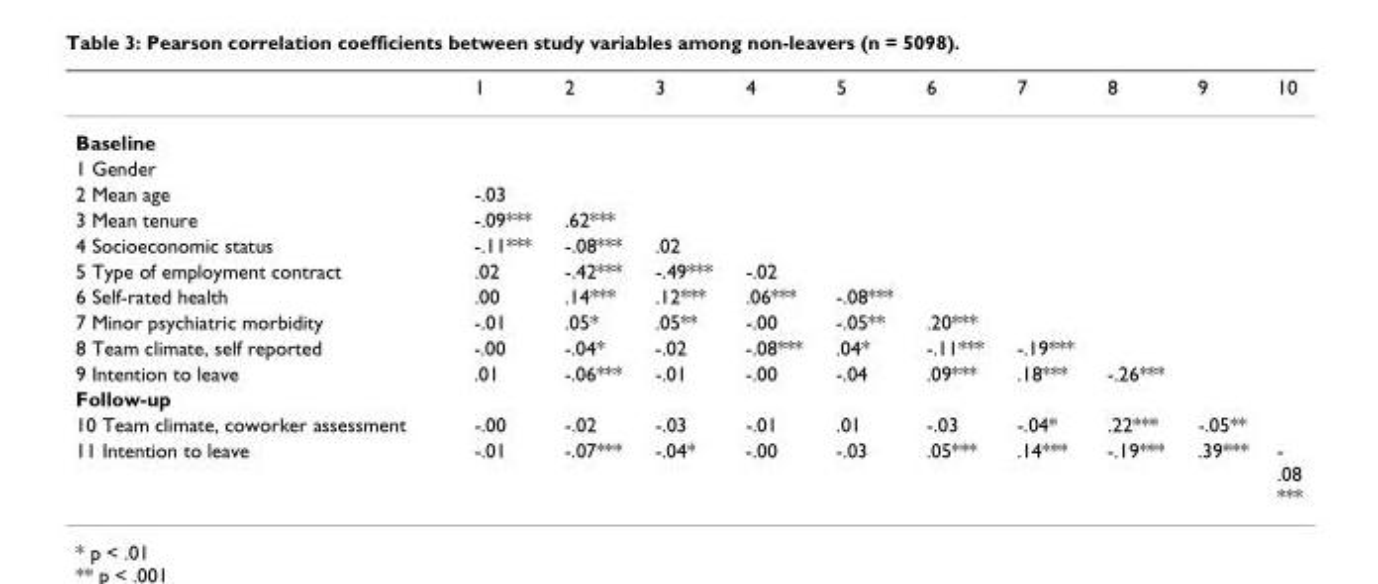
<table><thead><tr><td></td><td>1</td><td>2</td><td>3</td><td>4</td><td>5</td><td>6</td><td>7</td><td>8</td><td>9</td><td>10</td></tr></thead><tbody><tr><td colspan="11">Baseline</td></tr><tr><td colspan="11">1 Gender</td></tr><tr><td>2 Mean age</td><td>-.03</td><td></td><td></td><td></td><td></td><td></td><td></td><td></td><td></td><td></td></tr><tr><td>3 Mean tenure</td><td>-.09***</td><td>.62***</td><td></td><td></td><td></td><td></td><td></td><td></td><td></td><td></td></tr><tr><td>4 Socioeconomic status</td><td>-.11***</td><td>-.08***</td><td>.02</td><td></td><td></td><td></td><td></td><td></td><td></td><td></td></tr><tr><td>5 Type of employment contract</td><td>.02</td><td>-.42***</td><td>-.49***</td><td>-.02</td><td></td><td></td><td></td><td></td><td></td><td></td></tr><tr><td>6 Self-rated health</td><td>.00</td><td>.14***</td><td>.12***</td><td>.06***</td><td>-.08***</td><td></td><td></td><td></td><td></td><td></td></tr><tr><td>7 Minor psychiatric morbidity</td><td>-.01</td><td>.05*</td><td>.05**</td><td>-.00</td><td>-.05**</td><td>.20***</td><td></td><td></td><td></td><td></td></tr><tr><td>8 Team climate, self reported</td><td>-.00</td><td>-.04*</td><td>-.02</td><td>-.08***</td><td>.04*</td><td>-.11***</td><td>-.19***</td><td></td><td></td><td></td></tr><tr><td>9 Intention to leave</td><td>.01</td><td>-.06***</td><td>-.01</td><td>-.00</td><td>-.04</td><td>.09***</td><td>.18***</td><td>-.26***</td><td></td><td></td></tr><tr><td colspan="11">Follow-up</td></tr><tr><td>10 Team climate, coworker assessment</td><td>-.00</td><td>-.02</td><td>-.03</td><td>-.01</td><td>.01</td><td>-.03</td><td>-.04*</td><td>.22***</td><td>-.05**</td><td></td></tr><tr><td>11 Intention to leave</td><td>-.01</td><td>-.07***</td><td>-.04*</td><td>-.00</td><td>-.03</td><td>.05***</td><td>.14***</td><td>-.19***</td><td>.39***</td><td>- .08 ***</td></tr></tbody></table>